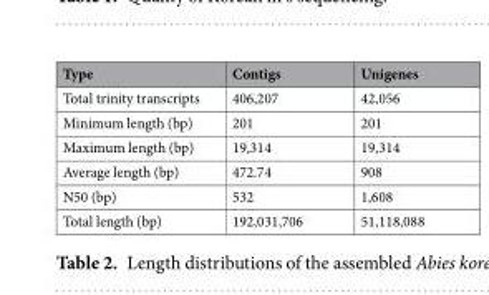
<table><thead><tr><td>Type</td><td>Contigs</td><td>Unigenes</td></tr></thead><tbody><tr><td>Total trinity transcripts</td><td>406,207</td><td>42,056</td></tr><tr><td>Minimum length (bp)</td><td>201</td><td>201</td></tr><tr><td>Maximum length (bp)</td><td>19,314</td><td>19,314</td></tr><tr><td>Average length (bp)</td><td>472.74</td><td>908</td></tr><tr><td>N50 (bp)</td><td>532</td><td>1,608</td></tr><tr><td>Total length (bp)</td><td>192,031,706</td><td>51,118,088</td></tr></tbody></table>